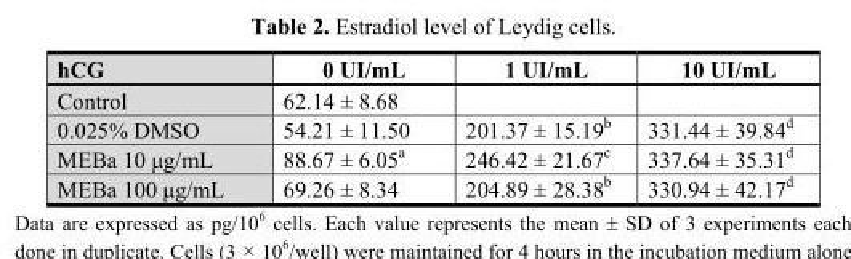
<table><thead><tr><td>hCG</td><td>0 UI/mL</td><td>1 UI/mL</td><td>10 UI/mL</td></tr></thead><tbody><tr><td>Control</td><td>62.14 ± 8.68</td><td></td><td></td></tr><tr><td>0.025% DMSO</td><td>54.21 ± 11.50</td><td>201.37 ± 15.19<sup>b</sup></td><td>331.44 ± 39.84<sup>d</sup></td></tr><tr><td>MEBa 10 μg/mL</td><td>88.67 ± 6.05<sup>a</sup></td><td>246.42 ± 21.67<sup>c</sup></td><td>337.64 ± 35.31<sup>d</sup></td></tr><tr><td>MEBa 100 μg/mL</td><td>69.26 ± 8.34</td><td>204.89 ± 28.38<sup>b</sup></td><td>330.94 ± 42.17<sup>d</sup></td></tr></tbody></table>